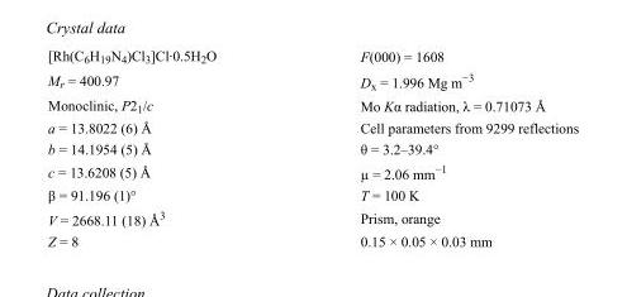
<table><tbody><tr><td>[Rh(C<sub>6</sub>H<sub>19</sub>N<sub>4</sub>)Cl<sub>3</sub>]Cl·0.5H<sub>2</sub>O</td><td>F(000) = 1608</td></tr><tr><td>M<sub>r</sub> = 400.97</td><td>D<sub>x</sub> = 1.996 Mg m<sup>−3</sup></td></tr><tr><td>Monoclinic, P2<sub>1</sub>/c</td><td>Mo Kα radiation, λ = 0.71073 Å</td></tr><tr><td>a = 13.8022 (6) Å</td><td>Cell parameters from 9299 reflections</td></tr><tr><td>b = 14.1954 (5) Å</td><td>θ = 3.2–39.4°</td></tr><tr><td>c = 13.6208 (5) Å</td><td>µ = 2.06 mm<sup>−1</sup></td></tr><tr><td>β = 91.196 (1)°</td><td>T = 100 K</td></tr><tr><td>V = 2668.11 (18) Å<sup>3</sup></td><td>Prism, orange</td></tr><tr><td>Z = 8</td><td>0.15 × 0.05 × 0.03 mm</td></tr></tbody></table>